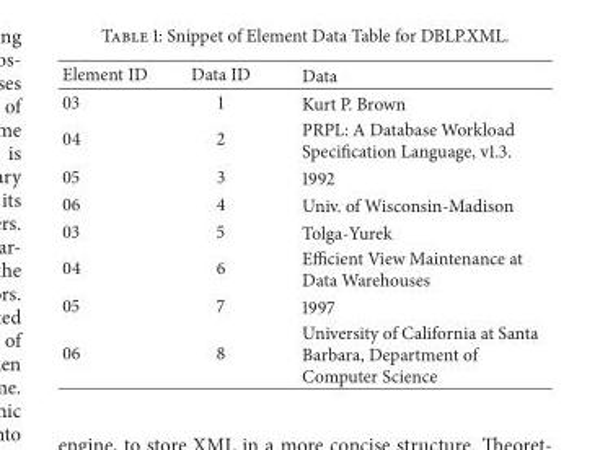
<table><thead><tr><td>Element ID</td><td>Data ID</td><td>Data</td></tr></thead><tbody><tr><td>03</td><td>1</td><td>Kurt P. Brown</td></tr><tr><td>04</td><td>2</td><td>PRPL: A Database Workload Specification Language, v1.3.</td></tr><tr><td>05</td><td>3</td><td>1992</td></tr><tr><td>06</td><td>4</td><td>Univ. of Wisconsin-Madison</td></tr><tr><td>03</td><td>5</td><td>Tolga-Yurek</td></tr><tr><td>04</td><td>6</td><td>Efficient View Maintenance at Data Warehouses</td></tr><tr><td>05</td><td>7</td><td>1997</td></tr><tr><td>06</td><td>8</td><td>University of California at Santa Barbara, Department of Computer Science</td></tr></tbody></table>